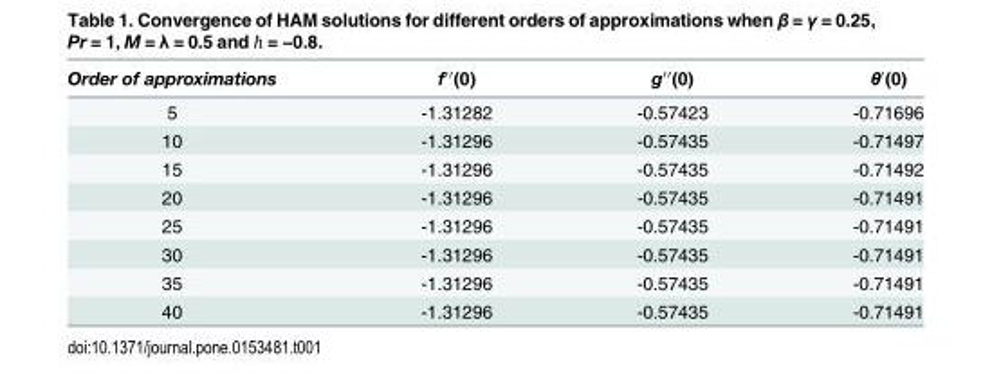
<table><thead><tr><td>Order of approximations</td><td>f′′(0)</td><td>g′′(0)</td><td>θ′(0)</td></tr></thead><tbody><tr><td>5</td><td>-1.31282</td><td>-0.57423</td><td>-0.71696</td></tr><tr><td>10</td><td>-1.31296</td><td>-0.57435</td><td>-0.71497</td></tr><tr><td>15</td><td>-1.31296</td><td>-0.57435</td><td>-0.71492</td></tr><tr><td>20</td><td>-1.31296</td><td>-0.57435</td><td>-0.71491</td></tr><tr><td>25</td><td>-1.31296</td><td>-0.57435</td><td>-0.71491</td></tr><tr><td>30</td><td>-1.31296</td><td>-0.57435</td><td>-0.71491</td></tr><tr><td>35</td><td>-1.31296</td><td>-0.57435</td><td>-0.71491</td></tr><tr><td>40</td><td>-1.31296</td><td>-0.57435</td><td>-0.71491</td></tr></tbody></table>